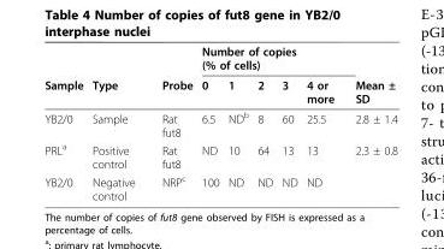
<table><thead><tr><td rowspan="2">Sample</td><td rowspan="2">Type</td><td rowspan="2">Probe</td><td colspan="5">Number of copies (% of cells)</td><td rowspan="2">Mean ± SD</td></tr><tr><td>0</td><td>1</td><td>2</td><td>3</td><td>4 or more</td></tr></thead><tbody><tr><td>YB2/0</td><td>Sample</td><td>Rat fut8</td><td>6.5</td><td>ND<sup>b</sup></td><td>8</td><td>60</td><td>25.5</td><td>2.8 ± 1.4</td></tr><tr><td>PRL<sup>a</sup></td><td>Positive control</td><td>Rat fut8</td><td>ND</td><td>10</td><td>64</td><td>13</td><td>13</td><td>2.3 ± 0.8</td></tr><tr><td>YB2/0</td><td>Negative control</td><td>NRP<sup>c</sup></td><td>100</td><td>ND</td><td>ND</td><td>ND</td><td>ND</td><td></td></tr></tbody></table>